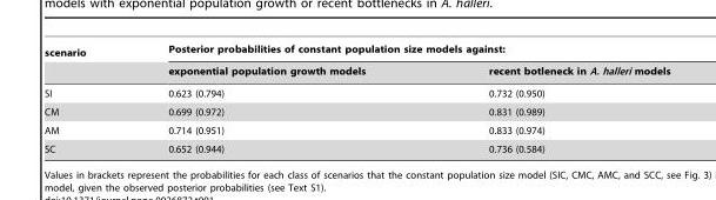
<table><thead><tr><td rowspan="2">scenario</td><td colspan="2">Posterior probabilities of constant population size models against:</td></tr><tr><td>exponential population growth models</td><td>recent botleneck in A. halleri models</td></tr></thead><tbody><tr><td>SI</td><td>0.623 (0.794)</td><td>0.732 (0.950)</td></tr><tr><td>CM</td><td>0.699 (0.972)</td><td>0.831 (0.989)</td></tr><tr><td>AM</td><td>0.714 (0.951)</td><td>0.833 (0.974)</td></tr><tr><td>SC</td><td>0.652 (0.944)</td><td>0.736 (0.584)</td></tr></tbody></table>